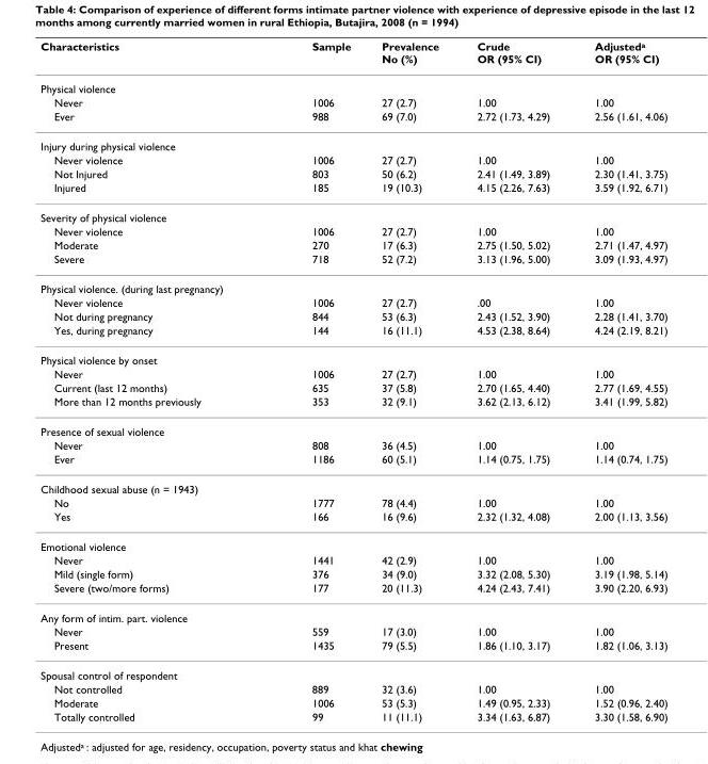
<table><thead><tr><td>Characteristics</td><td>Sample</td><td>Prevalence No (%)</td><td>Crude OR (95% CI)</td><td>Adjusted<sup>a</sup> OR (95% CI)</td></tr></thead><tbody><tr><td colspan="5">Physical violence</td></tr><tr><td>Never</td><td>1006</td><td>27 (2.7)</td><td>1.00</td><td>1.00</td></tr><tr><td>Ever</td><td>988</td><td>69 (7.0)</td><td>2.72 (1.73, 4.29)</td><td>2.56 (1.61, 4.06)</td></tr><tr><td colspan="5">Injury during physical violence</td></tr><tr><td>Never violence</td><td>1006</td><td>27 (2.7)</td><td>1.00</td><td>1.00</td></tr><tr><td>Not Injured</td><td>803</td><td>50 (6.2)</td><td>2.41 (1.49, 3.89)</td><td>2.30 (1.41, 3.75)</td></tr><tr><td>Injured</td><td>185</td><td>19 (10.3)</td><td>4.15 (2.26, 7.63)</td><td>3.59 (1.92, 6.71)</td></tr><tr><td colspan="5">Severity of physical violence</td></tr><tr><td>Never violence</td><td>1006</td><td>27 (2.7)</td><td>1.00</td><td>1.00</td></tr><tr><td>Moderate</td><td>270</td><td>17 (6.3)</td><td>2.75 (1.50, 5.02)</td><td>2.71 (1.47, 4.97)</td></tr><tr><td>Severe</td><td>718</td><td>52 (7.2)</td><td>3.13 (1.96, 5.00)</td><td>3.09 (1.93, 4.97)</td></tr><tr><td colspan="5">Physical violence. (during last pregnancy)</td></tr><tr><td>Never violence</td><td>1006</td><td>27 (2.7)</td><td>.00</td><td>1.00</td></tr><tr><td>Not during pregnancy</td><td>844</td><td>53 (6.3)</td><td>2.43 (1.52, 3.90)</td><td>2.28 (1.41, 3.70)</td></tr><tr><td>Yes, during pregnancy</td><td>144</td><td>16 (11.1)</td><td>4.53 (2.38, 8.64)</td><td>4.24 (2.19, 8.21)</td></tr><tr><td colspan="5">Physical violence by onset</td></tr><tr><td>Never</td><td>1006</td><td>27 (2.7)</td><td>1.00</td><td>1.00</td></tr><tr><td>Current (last 12 months)</td><td>635</td><td>37 (5.8)</td><td>2.70 (1.65, 4.40)</td><td>2.77 (1.69, 4.55)</td></tr><tr><td>More than 12 months previously</td><td>353</td><td>32 (9.1)</td><td>3.62 (2.13, 6.12)</td><td>3.41 (1.99, 5.82)</td></tr><tr><td colspan="5">Presence of sexual violence</td></tr><tr><td>Never</td><td>808</td><td>36 (4.5)</td><td>1.00</td><td>1.00</td></tr><tr><td>Ever</td><td>1186</td><td>60 (5.1)</td><td>1.14 (0.75, 1.75)</td><td>1.14 (0.74, 1.75)</td></tr><tr><td colspan="5">Childhood sexual abuse (n = 1943)</td></tr><tr><td>No</td><td>1777</td><td>78 (4.4)</td><td>1.00</td><td>1.00</td></tr><tr><td>Yes</td><td>166</td><td>16 (9.6)</td><td>2.32 (1.32, 4.08)</td><td>2.00 (1.13, 3.56)</td></tr><tr><td colspan="5">Emotional violence</td></tr><tr><td>Never</td><td>1441</td><td>42 (2.9)</td><td>1.00</td><td>1.00</td></tr><tr><td>Mild (single form)</td><td>376</td><td>34 (9.0)</td><td>3.32 (2.08, 5.30)</td><td>3.19 (1.98, 5.14)</td></tr><tr><td>Severe (two/more forms)</td><td>177</td><td>20 (11.3)</td><td>4.24 (2.43, 7.41)</td><td>3.90 (2.20, 6.93)</td></tr><tr><td colspan="5">Any form of intim. part. violence</td></tr><tr><td>Never</td><td>559</td><td>17 (3.0)</td><td>1.00</td><td>1.00</td></tr><tr><td>Present</td><td>1435</td><td>79 (5.5)</td><td>1.86 (1.10, 3.17)</td><td>1.82 (1.06, 3.13)</td></tr><tr><td colspan="5">Spousal control of respondent</td></tr><tr><td>Not controlled</td><td>889</td><td>32 (3.6)</td><td>1.00</td><td>1.00</td></tr><tr><td>Moderate</td><td>1006</td><td>53 (5.3)</td><td>1.49 (0.95, 2.33)</td><td>1.52 (0.96, 2.40)</td></tr><tr><td>Totally controlled</td><td>99</td><td>11 (11.1)</td><td>3.34 (1.63, 6.87)</td><td>3.30 (1.58, 6.90)</td></tr></tbody></table>